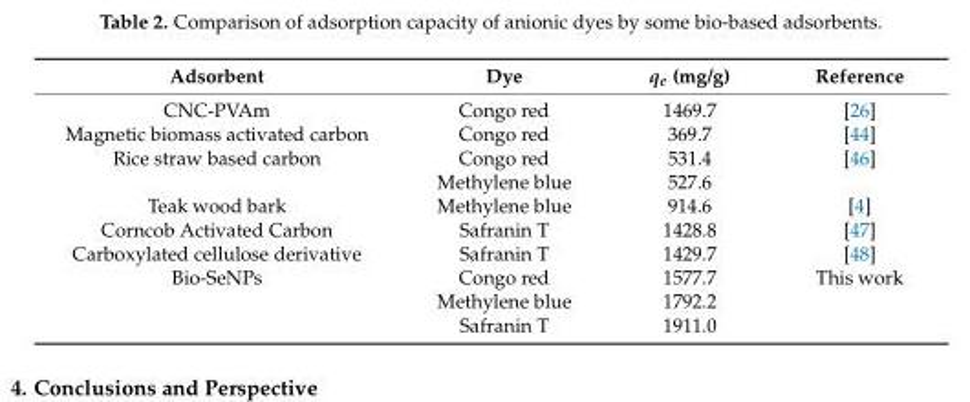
<table><thead><tr><td>Adsorbent</td><td>Dye</td><td>q<sub>e</sub> (mg/g)</td><td>Reference</td></tr></thead><tbody><tr><td>CNC-PVAm</td><td>Congo red</td><td>1469.7</td><td>[26]</td></tr><tr><td>Magnetic biomass activated carbon</td><td>Congo red</td><td>369.7</td><td>[44]</td></tr><tr><td rowspan="2">Rice straw based carbon</td><td>Congo red</td><td>531.4</td><td>[46]</td></tr><tr><td>Methylene blue</td><td>527.6</td><td></td></tr><tr><td>Teak wood bark</td><td>Methylene blue</td><td>914.6</td><td>[4]</td></tr><tr><td>Corncob Activated Carbon</td><td>Safranin T</td><td>1428.8</td><td>[47]</td></tr><tr><td>Carboxylated cellulose derivative</td><td>Safranin T</td><td>1429.7</td><td>[48]</td></tr><tr><td rowspan="3">Bio-SeNPs</td><td>Congo red</td><td>1577.7</td><td>This work</td></tr><tr><td>Methylene blue</td><td>1792.2</td><td></td></tr><tr><td>Safranin T</td><td>1911.0</td><td></td></tr></tbody></table>